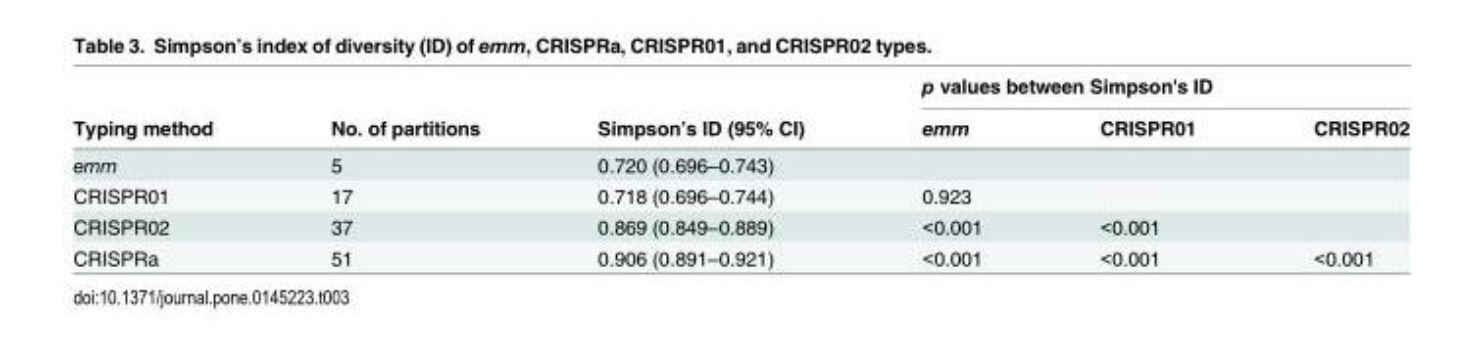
<table><thead><tr><td rowspan="2">Typing method</td><td rowspan="2">No. of partitions</td><td rowspan="2">Simpson’s ID (95% CI)</td><td colspan="3">p values between Simpson&#x27;s ID</td></tr><tr><td>emm</td><td>CRISPR01</td><td>CRISPR02</td></tr></thead><tbody><tr><td>emm</td><td>5</td><td>0.720 (0.696–0.743)</td><td></td><td></td><td></td></tr><tr><td>CRISPR01</td><td>17</td><td>0.718 (0.696–0.744)</td><td>0.923</td><td></td><td></td></tr><tr><td>CRISPR02</td><td>37</td><td>0.869 (0.849–0.889)</td><td>&lt;0.001</td><td>&lt;0.001</td><td></td></tr><tr><td>CRISPRa</td><td>51</td><td>0.906 (0.891–0.921)</td><td>&lt;0.001</td><td>&lt;0.001</td><td>&lt;0.001</td></tr></tbody></table>